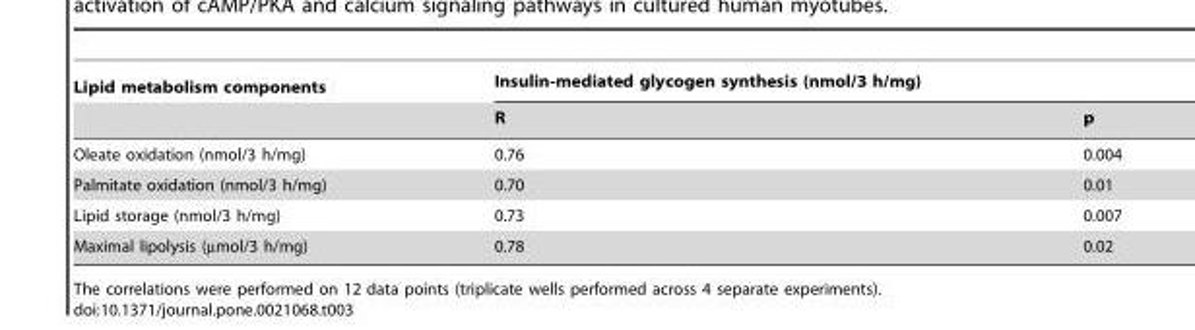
<table><thead><tr><td rowspan="2">Lipid metabolism components</td><td colspan="2">Insulin-mediated glycogen synthesis (nmol/3 h/mg)</td></tr><tr><td>R</td><td>p</td></tr></thead><tbody><tr><td>Oleate oxidation (nmol/3 h/mg)</td><td>0.76</td><td>0.004</td></tr><tr><td>Palmitate oxidation (nmol/3 h/mg)</td><td>0.70</td><td>0.01</td></tr><tr><td>Lipid storage (nmol/3 h/mg)</td><td>0.73</td><td>0.007</td></tr><tr><td>Maximal lipolysis (µmol/3 h/mg)</td><td>0.78</td><td>0.02</td></tr></tbody></table>